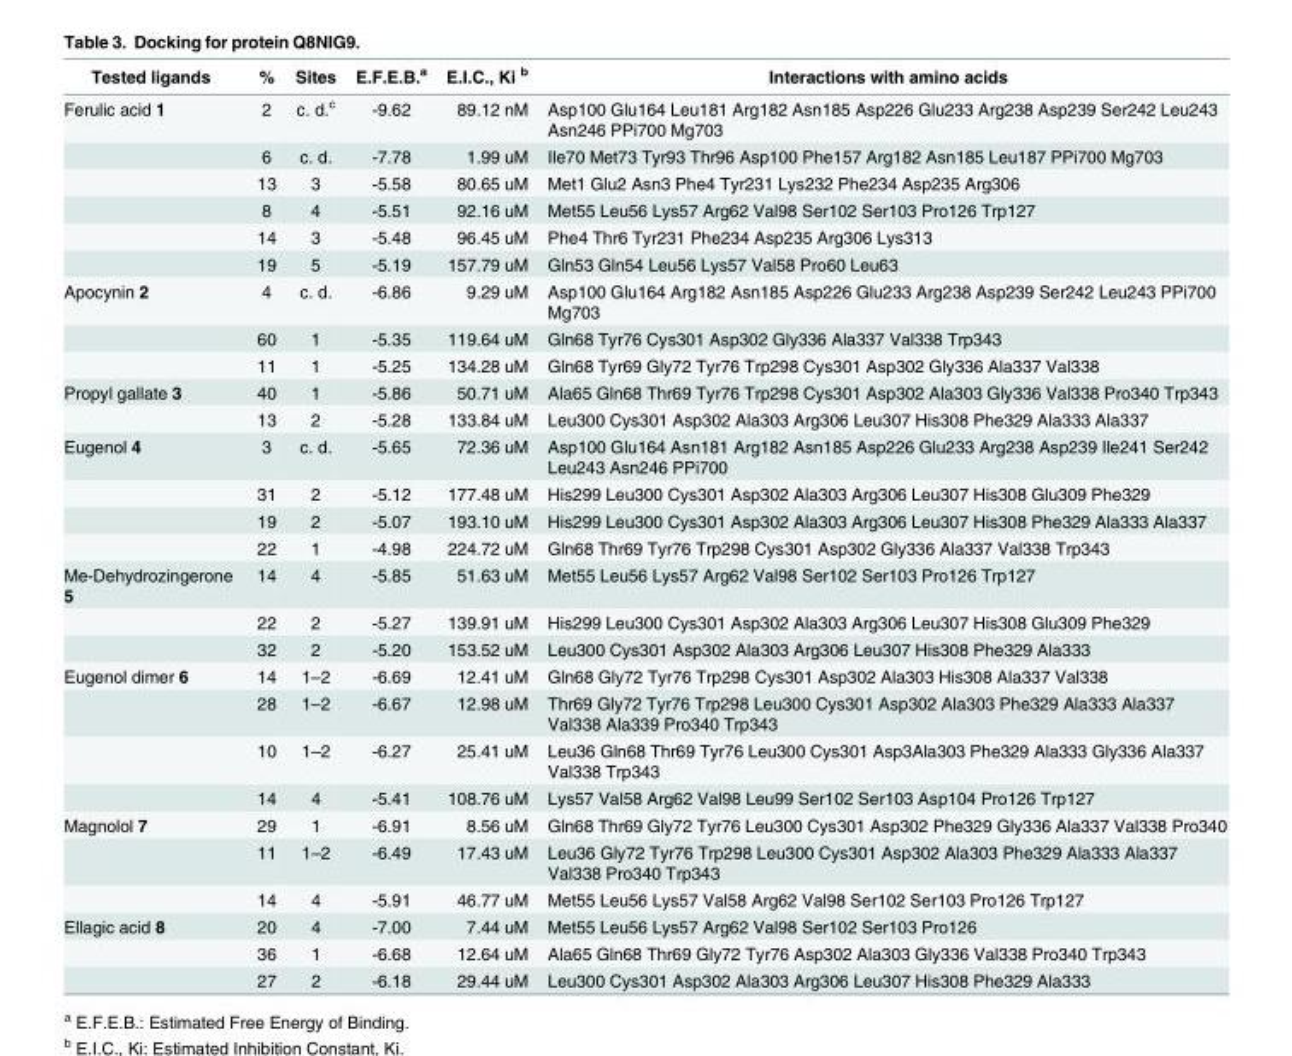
<table><thead><tr><td>Tested ligands</td><td>%</td><td>Sites</td><td>E.F.E.B.<sup>a</sup></td><td>E.I.C., Ki <sup>b</sup></td><td>Interactions with amino acids</td></tr></thead><tbody><tr><td rowspan="6">Ferulic acid 1</td><td>2</td><td>c. d.<sup>c</sup></td><td>-9.62</td><td>89.12 nM</td><td>Asp100 Glu164 Leu181 Arg182 Asn185 Asp226 Glu233 Arg238 Asp239 Ser242 Leu243 Asn246 PPi700 Mg703</td></tr><tr><td>6</td><td>c. d.</td><td>-7.78</td><td>1.99 uM</td><td>Ile70 Met73 Tyr93 Thr96 Asp100 Phe157 Arg182 Asn185 Leu187 PPi700 Mg703</td></tr><tr><td>13</td><td>3</td><td>-5.58</td><td>80.65 uM</td><td>Met1 Glu2 Asn3 Phe4 Tyr231 Lys232 Phe234 Asp235 Arg306</td></tr><tr><td>8</td><td>4</td><td>-5.51</td><td>92.16 uM</td><td>Met55 Leu56 Lys57 Arg62 Val98 Ser102 Ser103 Pro126 Trp127</td></tr><tr><td>14</td><td>3</td><td>-5.48</td><td>96.45 uM</td><td>Phe4 Thr6 Tyr231 Phe234 Asp235 Arg306 Lys313</td></tr><tr><td>19</td><td>5</td><td>-5.19</td><td>157.79 uM</td><td>Gln53 Gln54 Leu56 Lys57 Val58 Pro60 Leu63</td></tr><tr><td rowspan="3">Apocynin 2</td><td>4</td><td>c. d.</td><td>-6.86</td><td>9.29 uM</td><td>Asp100 Glu164 Arg182 Asn185 Asp226 Glu233 Arg238 Asp239 Ser242 Leu243 PPi700 Mg703</td></tr><tr><td>60</td><td>1</td><td>-5.35</td><td>119.64 uM</td><td>Gln68 Tyr76 Cys301 Asp302 Gly336 Ala337 Val338 Trp343</td></tr><tr><td>11</td><td>1</td><td>-5.25</td><td>134.28 uM</td><td>Gln68 Tyr69 Gly72 Tyr76 Trp298 Cys301 Asp302 Gly336 Ala337 Val338</td></tr><tr><td rowspan="2">Propyl gallate 3</td><td>40</td><td>1</td><td>-5.86</td><td>50.71 uM</td><td>Ala65 Gln68 Thr69 Tyr76 Trp298 Cys301 Asp302 Ala303 Gly336 Val338 Pro340 Trp343</td></tr><tr><td>13</td><td>2</td><td>-5.28</td><td>133.84 uM</td><td>Leu300 Cys301 Asp302 Ala303 Arg306 Leu307 His308 Phe329 Ala333 Ala337</td></tr><tr><td rowspan="4">Eugenol 4</td><td>3</td><td>c. d.</td><td>-5.65</td><td>72.36 uM</td><td>Asp100 Glu164 Asn181 Arg182 Asn185 Asp226 Glu233 Arg238 Asp239 Ile241 Ser242 Leu243 Asn246 PPi700</td></tr><tr><td>31</td><td>2</td><td>-5.12</td><td>177.48 uM</td><td>His299 Leu300 Cys301 Asp302 Ala303 Arg306 Leu307 His308 Glu309 Phe329</td></tr><tr><td>19</td><td>2</td><td>-5.07</td><td>193.10 uM</td><td>His299 Leu300 Cys301 Asp302 Ala303 Arg306 Leu307 His308 Phe329 Ala333 Ala337</td></tr><tr><td>22</td><td>1</td><td>-4.98</td><td>224.72 uM</td><td>Gln68 Thr69 Tyr76 Trp298 Cys301 Asp302 Gly336 Ala337 Val338 Trp343</td></tr><tr><td rowspan="3">Me-Dehydrozingerone 5</td><td>14</td><td>4</td><td>-5.85</td><td>51.63 uM</td><td>Met55 Leu56 Lys57 Arg62 Val98 Ser102 Ser103 Pro126 Trp127</td></tr><tr><td>22</td><td>2</td><td>-5.27</td><td>139.91 uM</td><td>His299 Leu300 Cys301 Asp302 Ala303 Arg306 Leu307 His308 Glu309 Phe329</td></tr><tr><td>32</td><td>2</td><td>-5.20</td><td>153.52 uM</td><td>Leu300 Cys301 Asp302 Ala303 Arg306 Leu307 His308 Phe329 Ala333</td></tr><tr><td rowspan="4">Eugenol dimer 6</td><td>14</td><td>1–2</td><td>-6.69</td><td>12.41 uM</td><td>Gln68 Gly72 Tyr76 Trp298 Cys301 Asp302 Ala303 His308 Ala337 Val338</td></tr><tr><td>28</td><td>1–2</td><td>-6.67</td><td>12.98 uM</td><td>Thr69 Gly72 Tyr76 Trp298 Leu300 Cys301 Asp302 Ala303 Phe329 Ala333 Ala337 Val338 Ala339 Pro340 Trp343</td></tr><tr><td>10</td><td>1–2</td><td>-6.27</td><td>25.41 uM</td><td>Leu36 Gln68 Thr69 Tyr76 Leu300 Cys301 Asp3Ala303 Phe329 Ala333 Gly336 Ala337 Val338 Trp343</td></tr><tr><td>14</td><td>4</td><td>-5.41</td><td>108.76 uM</td><td>Lys57 Val58 Arg62 Val98 Leu99 Ser102 Ser103 Asp104 Pro126 Trp127</td></tr><tr><td rowspan="3">Magnolol 7</td><td>29</td><td>1</td><td>-6.91</td><td>8.56 uM</td><td>Gln68 Thr69 Gly72 Tyr76 Leu300 Cys301 Asp302 Phe329 Gly336 Ala337 Val338 Pro340</td></tr><tr><td>11</td><td>1–2</td><td>-6.49</td><td>17.43 uM</td><td>Leu36 Gly72 Tyr76 Trp298 Leu300 Cys301 Asp302 Ala303 Phe329 Ala333 Ala337 Val338 Pro340 Trp343</td></tr><tr><td>14</td><td>4</td><td>-5.91</td><td>46.77 uM</td><td>Met55 Leu56 Lys57 Val58 Arg62 Val98 Ser102 Ser103 Pro126 Trp127</td></tr><tr><td rowspan="3">Ellagic acid 8</td><td>20</td><td>4</td><td>-7.00</td><td>7.44 uM</td><td>Met55 Leu56 Lys57 Arg62 Val98 Ser102 Ser103 Pro126</td></tr><tr><td>36</td><td>1</td><td>-6.68</td><td>12.64 uM</td><td>Ala65 Gln68 Thr69 Gly72 Tyr76 Asp302 Ala303 Gly336 Val338 Pro340 Trp343</td></tr><tr><td>27</td><td>2</td><td>-6.18</td><td>29.44 uM</td><td>Leu300 Cys301 Asp302 Ala303 Arg306 Leu307 His308 Phe329 Ala333</td></tr></tbody></table>